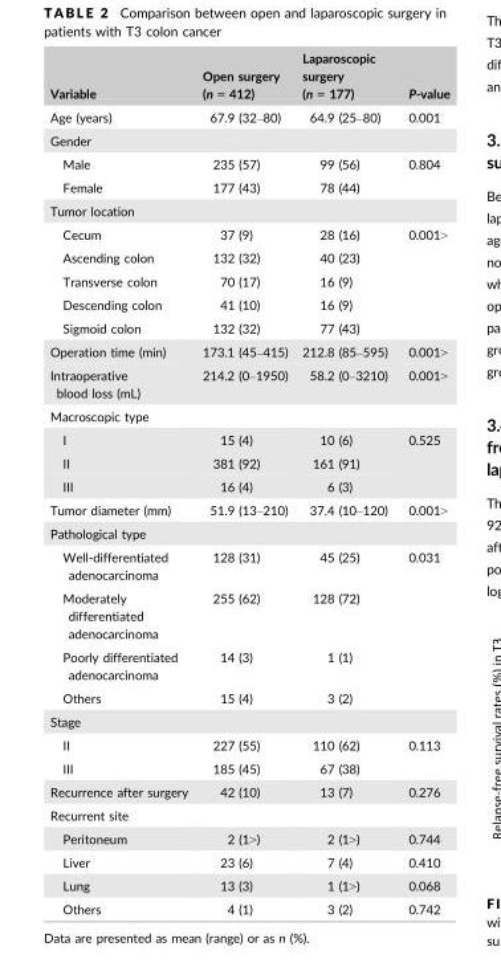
<table><thead><tr><td>Variable</td><td>Open surgery (n = 412)</td><td>Laparoscopic surgery (n = 177)</td><td>P-value</td></tr></thead><tbody><tr><td>Age (years)</td><td>67.9 (32–80)</td><td>64.9 (25–80)</td><td>0.001</td></tr><tr><td colspan="4">Gender</td></tr><tr><td>Male</td><td>235 (57)</td><td>99 (56)</td><td rowspan="2">0.804</td></tr><tr><td>Female</td><td>177 (43)</td><td>78 (44)</td></tr><tr><td colspan="4">Tumor location</td></tr><tr><td>Cecum</td><td>37 (9)</td><td>28 (16)</td><td rowspan="5">0.001&gt;</td></tr><tr><td>Ascending colon</td><td>132 (32)</td><td>40 (23)</td></tr><tr><td>Transverse colon</td><td>70 (17)</td><td>16 (9)</td></tr><tr><td>Descending colon</td><td>41 (10)</td><td>16 (9)</td></tr><tr><td>Sigmoid colon</td><td>132 (32)</td><td>77 (43)</td></tr><tr><td>Operation time (min)</td><td>173.1 (45–415)</td><td>212.8 (85–595)</td><td>0.001&gt;</td></tr><tr><td>Intraoperative blood loss (mL)</td><td>214.2 (0–1950)</td><td>58.2 (0–3210)</td><td>0.001&gt;</td></tr><tr><td colspan="4">Macroscopic type</td></tr><tr><td>I</td><td>15 (4)</td><td>10 (6)</td><td rowspan="3">0.525</td></tr><tr><td>II</td><td>381 (92)</td><td>161 (91)</td></tr><tr><td>III</td><td>16 (4)</td><td>6 (3)</td></tr><tr><td>Tumor diameter (mm)</td><td>51.9 (13–210)</td><td>37.4 (10–120)</td><td>0.001&gt;</td></tr><tr><td colspan="4">Pathological type</td></tr><tr><td>Well-differentiated adenocarcinoma</td><td>128 (31)</td><td>45 (25)</td><td rowspan="4">0.031</td></tr><tr><td>Moderately differentiated adenocarcinoma</td><td>255 (62)</td><td>128 (72)</td></tr><tr><td>Poorly differentiated adenocarcinoma</td><td>14 (3)</td><td>1 (1)</td></tr><tr><td>Others</td><td>15 (4)</td><td>3 (2)</td></tr><tr><td colspan="4">Stage</td></tr><tr><td>II</td><td>227 (55)</td><td>110 (62)</td><td rowspan="2">0.113</td></tr><tr><td>III</td><td>185 (45)</td><td>67 (38)</td></tr><tr><td>Recurrence after surgery</td><td>42 (10)</td><td>13 (7)</td><td>0.276</td></tr><tr><td colspan="4">Recurrent site</td></tr><tr><td>Peritoneum</td><td>2 (1&gt;)</td><td>2 (1&gt;)</td><td>0.744</td></tr><tr><td>Liver</td><td>23 (6)</td><td>7 (4)</td><td>0.410</td></tr><tr><td>Lung</td><td>13 (3)</td><td>1 (1&gt;)</td><td>0.068</td></tr><tr><td>Others</td><td>4 (1)</td><td>3 (2)</td><td>0.742</td></tr></tbody></table>